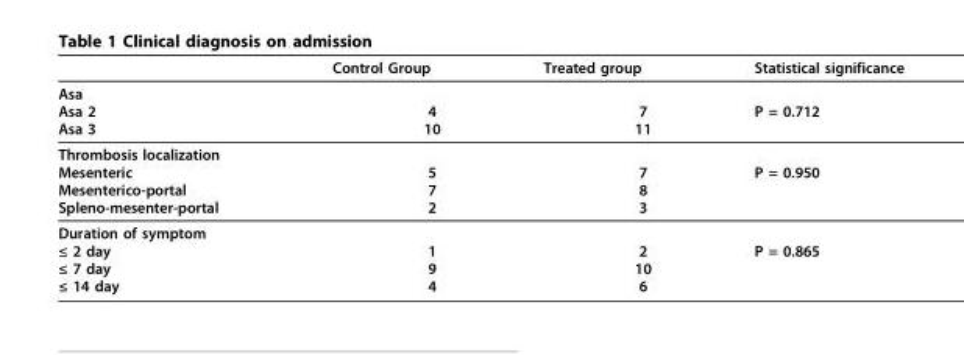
<table><thead><tr><td></td><td>Control Group</td><td>Treated group</td><td>Statistical significance</td></tr></thead><tbody><tr><td>Asa Asa 2 Asa 3</td><td>4 10</td><td>7 11</td><td>P = 0.712</td></tr><tr><td>Thrombosis localization Mesenteric Mesenterico-portal Spleno-mesenter-portal</td><td>5 7 2</td><td>7 8 3</td><td>P = 0.950</td></tr><tr><td>Duration of symptom ≤ 2 day ≤ 7 day ≤ 14 day</td><td>1 9 4</td><td>2 10 6</td><td>P = 0.865</td></tr></tbody></table>